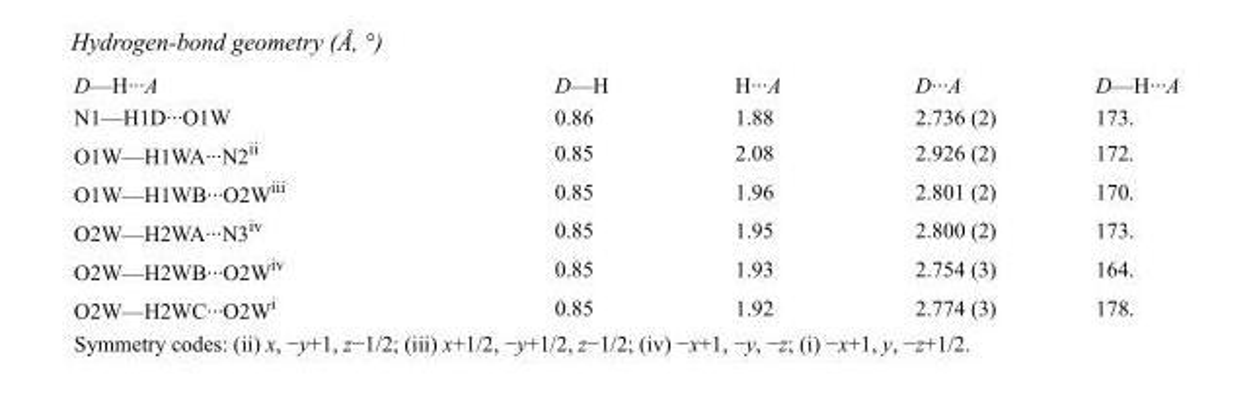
<table><tbody><tr><td>D—H···A</td><td>D—H</td><td>H···A</td><td>D···A</td><td>D—H···A</td></tr><tr><td>N1—H1D···O1W</td><td>0.86</td><td>1.88</td><td>2.736 (2)</td><td>173.</td></tr><tr><td>O1W—H1WA···N2<sup>ii</sup></td><td>0.85</td><td>2.08</td><td>2.926 (2)</td><td>172.</td></tr><tr><td>O1W—H1WB···O2W<sup>iii</sup></td><td>0.85</td><td>1.96</td><td>2.801 (2)</td><td>170.</td></tr><tr><td>O2W—H2WA···N3<sup>iv</sup></td><td>0.85</td><td>1.95</td><td>2.800 (2)</td><td>173.</td></tr><tr><td>O2W—H2WB···O2W<sup>iv</sup></td><td>0.85</td><td>1.93</td><td>2.754 (3)</td><td>164.</td></tr><tr><td>O2W—H2WC···O2W<sup>i</sup></td><td>0.85</td><td>1.92</td><td>2.774 (3)</td><td>178.</td></tr></tbody></table>